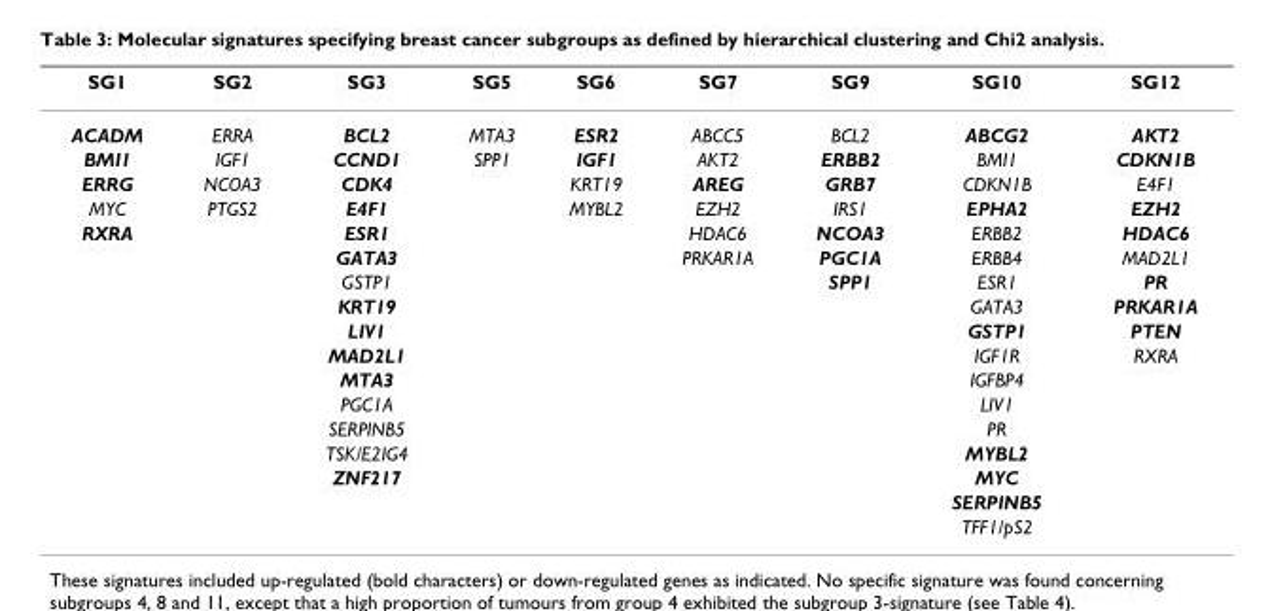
<table><thead><tr><td>SG1</td><td>SG2</td><td>SG3</td><td>SG5</td><td>SG6</td><td>SG7</td><td>SG9</td><td>SG10</td><td>SG12</td></tr></thead><tbody><tr><td>ACADM</td><td>ERRA</td><td>BCL2</td><td>MTA3</td><td>ESR2</td><td>ABCC5</td><td>BCL2</td><td>ABCG2</td><td>AKT2</td></tr><tr><td>BMI1</td><td>IGF1</td><td>CCND1</td><td>SPP1</td><td>IGF1</td><td>AKT2</td><td>ERBB2</td><td>BMI1</td><td>CDKN1B</td></tr><tr><td>ERRG</td><td>NCOA3</td><td>CDK4</td><td></td><td>KRT19</td><td>AREG</td><td>GRB7</td><td>CDKN1B</td><td>E4F1</td></tr><tr><td>MYC</td><td>PTGS2</td><td>E4F1</td><td></td><td>MYBL2</td><td>EZH2</td><td>IRS1</td><td>EPHA2</td><td>EZH2</td></tr><tr><td rowspan="13">RXRA</td><td></td><td>ESR1</td><td></td><td></td><td>HDAC6</td><td>NCOA3</td><td>ERBB2</td><td>HDAC6</td></tr><tr><td></td><td>GATA3</td><td></td><td></td><td>PRKAR1A</td><td>PGC1A</td><td>ERBB4</td><td>MAD2L1</td></tr><tr><td></td><td>GSTP1</td><td></td><td></td><td></td><td>SPP1</td><td>ESR1</td><td>PR</td></tr><tr><td></td><td>KRT19</td><td></td><td></td><td></td><td></td><td>GATA3</td><td>PRKAR1A</td></tr><tr><td></td><td>LIV1</td><td></td><td></td><td></td><td></td><td>GSTP1</td><td>PTEN</td></tr><tr><td></td><td>MAD2L1</td><td></td><td></td><td></td><td></td><td>IGF1R</td><td>RXRA</td></tr><tr><td></td><td>MTA3</td><td></td><td></td><td></td><td></td><td>IGFBP4</td><td></td></tr><tr><td></td><td>PGC1A</td><td></td><td></td><td></td><td></td><td>LIV1</td><td></td></tr><tr><td></td><td>SERPINB5</td><td></td><td></td><td></td><td></td><td>PR</td><td></td></tr><tr><td></td><td>TSK/E2IG4</td><td></td><td></td><td></td><td></td><td>MYBL2</td><td></td></tr><tr><td></td><td>ZNF217</td><td></td><td></td><td></td><td></td><td>MYC</td><td></td></tr><tr><td></td><td></td><td></td><td></td><td></td><td></td><td>SERPINB5</td><td></td></tr><tr><td></td><td></td><td></td><td></td><td></td><td></td><td>TFF1/pS2</td><td></td></tr></tbody></table>